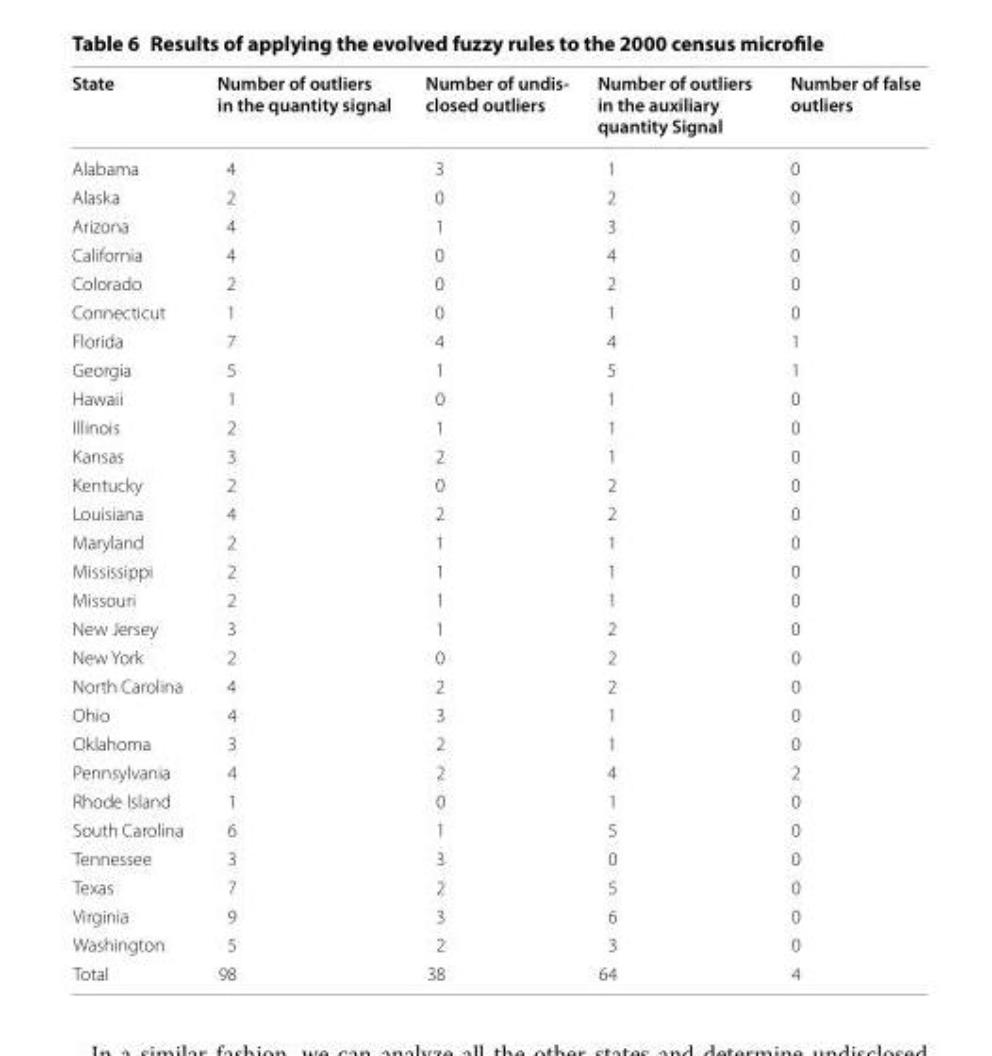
<table><thead><tr><td>State</td><td>Number of outliers in the quantity signal</td><td>Number of undis- closed outliers</td><td>Number of outliers in the auxiliary quantity Signal</td><td>Number of false outliers</td></tr></thead><tbody><tr><td>Alabama</td><td>4</td><td>3</td><td>1</td><td>0</td></tr><tr><td>Alaska</td><td>2</td><td>0</td><td>2</td><td>0</td></tr><tr><td>Arizona</td><td>4</td><td>1</td><td>3</td><td>0</td></tr><tr><td>California</td><td>4</td><td>0</td><td>4</td><td>0</td></tr><tr><td>Colorado</td><td>2</td><td>0</td><td>2</td><td>0</td></tr><tr><td>Connecticut</td><td>1</td><td>0</td><td>1</td><td>0</td></tr><tr><td>Florida</td><td>7</td><td>4</td><td>4</td><td>1</td></tr><tr><td>Georgia</td><td>5</td><td>1</td><td>5</td><td>1</td></tr><tr><td>Hawaii</td><td>1</td><td>0</td><td>1</td><td>0</td></tr><tr><td>Illinois</td><td>2</td><td>1</td><td>1</td><td>0</td></tr><tr><td>Kansas</td><td>3</td><td>2</td><td>1</td><td>0</td></tr><tr><td>Kentucky</td><td>2</td><td>0</td><td>2</td><td>0</td></tr><tr><td>Louisiana</td><td>4</td><td>2</td><td>2</td><td>0</td></tr><tr><td>Maryland</td><td>2</td><td>1</td><td>1</td><td>0</td></tr><tr><td>Mississippi</td><td>2</td><td>1</td><td>1</td><td>0</td></tr><tr><td>Missouri</td><td>2</td><td>1</td><td>1</td><td>0</td></tr><tr><td>New Jersey</td><td>3</td><td>1</td><td>2</td><td>0</td></tr><tr><td>New York</td><td>2</td><td>0</td><td>2</td><td>0</td></tr><tr><td>North Carolina</td><td>4</td><td>2</td><td>2</td><td>0</td></tr><tr><td>Ohio</td><td>4</td><td>3</td><td>1</td><td>0</td></tr><tr><td>Oklahoma</td><td>3</td><td>2</td><td>1</td><td>0</td></tr><tr><td>Pennsylvania</td><td>4</td><td>2</td><td>4</td><td>2</td></tr><tr><td>Rhode Island</td><td>1</td><td>0</td><td>1</td><td>0</td></tr><tr><td>South Carolina</td><td>6</td><td>1</td><td>5</td><td>0</td></tr><tr><td>Tennessee</td><td>3</td><td>3</td><td>0</td><td>0</td></tr><tr><td>Texas</td><td>7</td><td>2</td><td>5</td><td>0</td></tr><tr><td>Virginia</td><td>9</td><td>3</td><td>6</td><td>0</td></tr><tr><td>Washington</td><td>5</td><td>2</td><td>3</td><td>0</td></tr><tr><td>Total</td><td>98</td><td>38</td><td>64</td><td>4</td></tr></tbody></table>